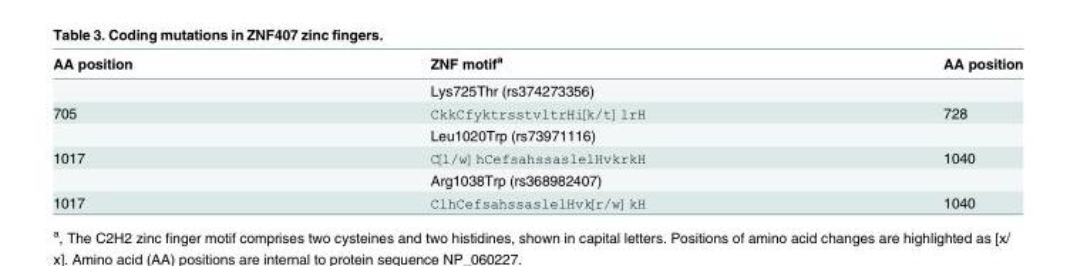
<table><thead><tr><td>AA position</td><td>ZNF motif<sup>a</sup></td><td>AA position</td></tr></thead><tbody><tr><td></td><td>Lys725Thr (rs374273356)</td><td></td></tr><tr><td rowspan="2">705</td><td>CkkCfyktrsstvltrHi[k/t]lrH</td><td>728</td></tr><tr><td>Leu1020Trp (rs73971116)</td><td></td></tr><tr><td rowspan="2">1017</td><td>C[l/w]hCefsahssaslelHvkrkH</td><td>1040</td></tr><tr><td>Arg1038Trp (rs368982407)</td><td></td></tr><tr><td>1017</td><td>ClhCefsahssaslelHvk[r/w]kH</td><td>1040</td></tr></tbody></table>